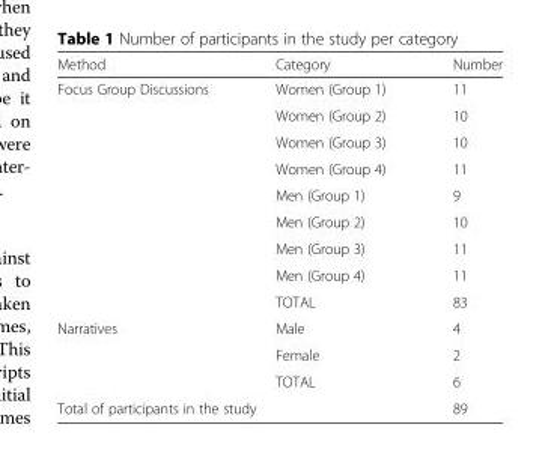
<table><thead><tr><td>Method</td><td>Category</td><td>Number</td></tr></thead><tbody><tr><td rowspan="9">Focus Group Discussions</td><td>Women (Group 1)</td><td>11</td></tr><tr><td>Women (Group 2)</td><td>10</td></tr><tr><td>Women (Group 3)</td><td>10</td></tr><tr><td>Women (Group 4)</td><td>11</td></tr><tr><td>Men (Group 1)</td><td>9</td></tr><tr><td>Men (Group 2)</td><td>10</td></tr><tr><td>Men (Group 3)</td><td>11</td></tr><tr><td>Men (Group 4)</td><td>11</td></tr><tr><td>TOTAL</td><td>83</td></tr><tr><td rowspan="3">Narratives</td><td>Male</td><td>4</td></tr><tr><td>Female</td><td>2</td></tr><tr><td>TOTAL</td><td>6</td></tr><tr><td colspan="2">Total of participants in the study</td><td>89</td></tr></tbody></table>